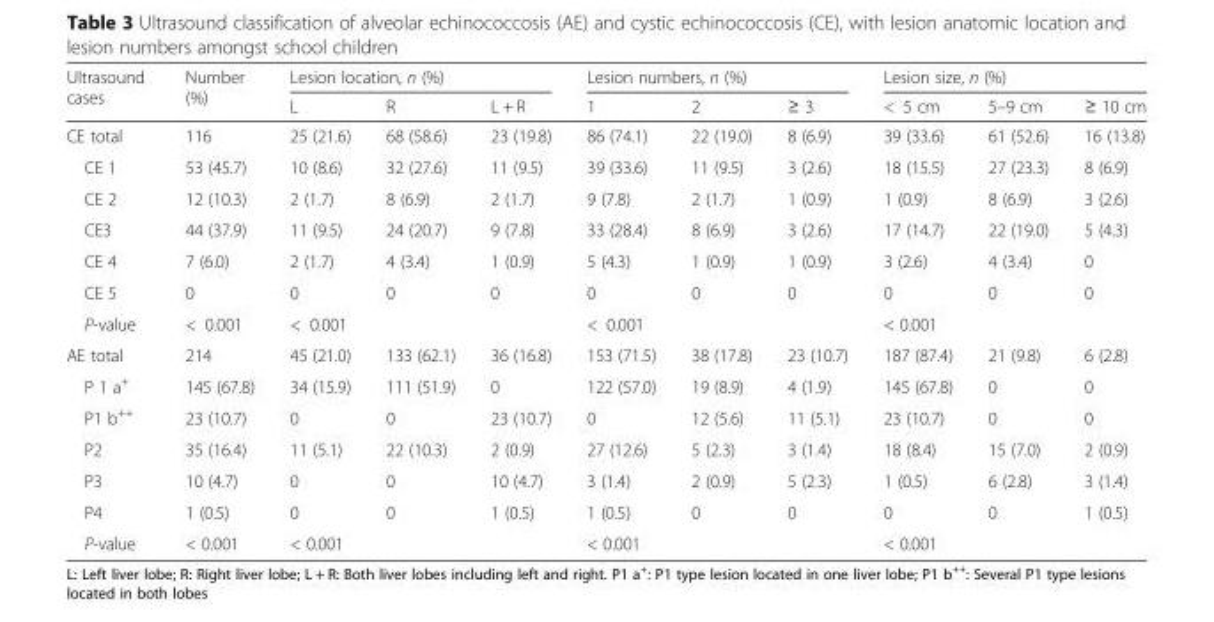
<table><thead><tr><td rowspan="2">Ultrasound cases</td><td rowspan="2">Number (%)</td><td colspan="3">Lesion location, n (%)</td><td colspan="3">Lesion numbers, n (%)</td><td colspan="3">Lesion size, n (%)</td></tr><tr><td>L</td><td>R</td><td>L + R</td><td>1</td><td>2</td><td>≥ 3</td><td>&lt; 5 cm</td><td>5–9 cm</td><td>≥ 10 cm</td></tr></thead><tbody><tr><td>CE total</td><td>116</td><td>25 (21.6)</td><td>68 (58.6)</td><td>23 (19.8)</td><td>86 (74.1)</td><td>22 (19.0)</td><td>8 (6.9)</td><td>39 (33.6)</td><td>61 (52.6)</td><td>16 (13.8)</td></tr><tr><td>CE 1</td><td>53 (45.7)</td><td>10 (8.6)</td><td>32 (27.6)</td><td>11 (9.5)</td><td>39 (33.6)</td><td>11 (9.5)</td><td>3 (2.6)</td><td>18 (15.5)</td><td>27 (23.3)</td><td>8 (6.9)</td></tr><tr><td>CE 2</td><td>12 (10.3)</td><td>2 (1.7)</td><td>8 (6.9)</td><td>2 (1.7)</td><td>9 (7.8)</td><td>2 (1.7)</td><td>1 (0.9)</td><td>1 (0.9)</td><td>8 (6.9)</td><td>3 (2.6)</td></tr><tr><td>CE3</td><td>44 (37.9)</td><td>11 (9.5)</td><td>24 (20.7)</td><td>9 (7.8)</td><td>33 (28.4)</td><td>8 (6.9)</td><td>3 (2.6)</td><td>17 (14.7)</td><td>22 (19.0)</td><td>5 (4.3)</td></tr><tr><td>CE 4</td><td>7 (6.0)</td><td>2 (1.7)</td><td>4 (3.4)</td><td>1 (0.9)</td><td>5 (4.3)</td><td>1 (0.9)</td><td>1 (0.9)</td><td>3 (2.6)</td><td>4 (3.4)</td><td>0</td></tr><tr><td>CE 5</td><td>0</td><td>0</td><td>0</td><td>0</td><td>0</td><td>0</td><td>0</td><td>0</td><td>0</td><td>0</td></tr><tr><td>P-value</td><td>&lt; 0.001</td><td colspan="3">&lt; 0.001</td><td colspan="3">&lt; 0.001</td><td colspan="3">&lt; 0.001</td></tr><tr><td>AE total</td><td>214</td><td>45 (21.0)</td><td>133 (62.1)</td><td>36 (16.8)</td><td>153 (71.5)</td><td>38 (17.8)</td><td>23 (10.7)</td><td>187 (87.4)</td><td>21 (9.8)</td><td>6 (2.8)</td></tr><tr><td>P 1 a<sup>+</sup></td><td>145 (67.8)</td><td>34 (15.9)</td><td>111 (51.9)</td><td>0</td><td>122 (57.0)</td><td>19 (8.9)</td><td>4 (1.9)</td><td>145 (67.8)</td><td>0</td><td>0</td></tr><tr><td>P1 b<sup>++</sup></td><td>23 (10.7)</td><td>0</td><td>0</td><td>23 (10.7)</td><td>0</td><td>12 (5.6)</td><td>11 (5.1)</td><td>23 (10.7)</td><td>0</td><td>0</td></tr><tr><td>P2</td><td>35 (16.4)</td><td>11 (5.1)</td><td>22 (10.3)</td><td>2 (0.9)</td><td>27 (12.6)</td><td>5 (2.3)</td><td>3 (1.4)</td><td>18 (8.4)</td><td>15 (7.0)</td><td>2 (0.9)</td></tr><tr><td>P3</td><td>10 (4.7)</td><td>0</td><td>0</td><td>10 (4.7)</td><td>3 (1.4)</td><td>2 (0.9)</td><td>5 (2.3)</td><td>1 (0.5)</td><td>6 (2.8)</td><td>3 (1.4)</td></tr><tr><td>P4</td><td>1 (0.5)</td><td>0</td><td>0</td><td>1 (0.5)</td><td>1 (0.5)</td><td>0</td><td>0</td><td>0</td><td>0</td><td>1 (0.5)</td></tr><tr><td>P-value</td><td>&lt; 0.001</td><td colspan="3">&lt; 0.001</td><td colspan="3">&lt; 0.001</td><td colspan="3">&lt; 0.001</td></tr></tbody></table>